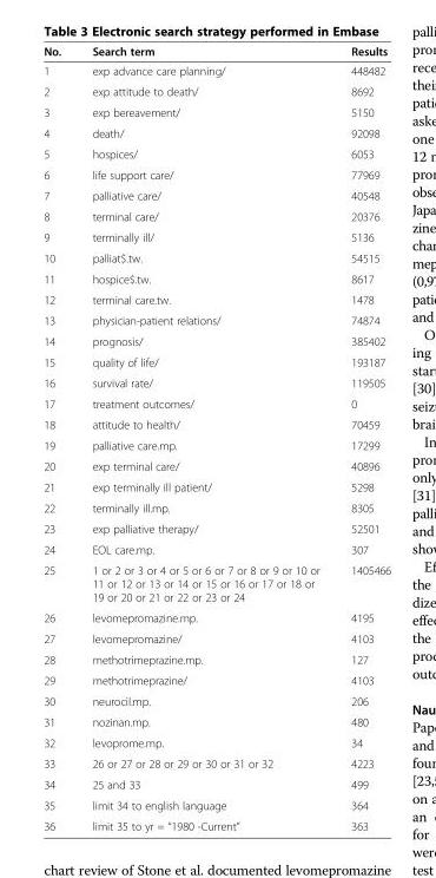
<table><thead><tr><td>No.</td><td>Search term</td><td>Results</td></tr></thead><tbody><tr><td>1</td><td>exp advance care planning/</td><td>448482</td></tr><tr><td>2</td><td>exp attitude to death/</td><td>8692</td></tr><tr><td>3</td><td>exp bereavement/</td><td>5150</td></tr><tr><td>4</td><td>death/</td><td>92098</td></tr><tr><td>5</td><td>hospices/</td><td>6053</td></tr><tr><td>6</td><td>life support care/</td><td>77969</td></tr><tr><td>7</td><td>palliative care/</td><td>40548</td></tr><tr><td>8</td><td>terminal care/</td><td>20376</td></tr><tr><td>9</td><td>terminally ill/</td><td>5136</td></tr><tr><td>10</td><td>palliat$.tw.</td><td>54515</td></tr><tr><td>11</td><td>hospice$.tw.</td><td>8617</td></tr><tr><td>12</td><td>terminal care.tw.</td><td>1478</td></tr><tr><td>13</td><td>physician-patient relations/</td><td>74874</td></tr><tr><td>14</td><td>prognosis/</td><td>385402</td></tr><tr><td>15</td><td>quality of life/</td><td>193187</td></tr><tr><td>16</td><td>survival rate/</td><td>119505</td></tr><tr><td>17</td><td>treatment outcomes/</td><td>0</td></tr><tr><td>18</td><td>attitude to health/</td><td>70459</td></tr><tr><td>19</td><td>palliative care.mp.</td><td>17299</td></tr><tr><td>20</td><td>exp terminal care/</td><td>40896</td></tr><tr><td>21</td><td>exp terminally ill patient/</td><td>5298</td></tr><tr><td>22</td><td>terminally ill.mp.</td><td>8305</td></tr><tr><td>23</td><td>exp palliative therapy/</td><td>52501</td></tr><tr><td>24</td><td>EOL care.mp.</td><td>307</td></tr><tr><td>25</td><td>1 or 2 or 3 or 4 or 5 or 6 or 7 or 8 or 9 or 10 or 11 or 12 or 13 or 14 or 15 or 16 or 17 or 18 or 19 or 20 or 21 or 22 or 23 or 24</td><td>1405466</td></tr><tr><td>26</td><td>levomepromazine.mp.</td><td>4195</td></tr><tr><td>27</td><td>levomepromazine/</td><td>4103</td></tr><tr><td>28</td><td>methotrimeprazine.mp.</td><td>127</td></tr><tr><td>29</td><td>methotrimeprazine/</td><td>4103</td></tr><tr><td>30</td><td>neurocil.mp.</td><td>206</td></tr><tr><td>31</td><td>nozinan.mp.</td><td>480</td></tr><tr><td>32</td><td>levoprome.mp.</td><td>34</td></tr><tr><td>33</td><td>26 or 27 or 28 or 29 or 30 or 31 or 32</td><td>4223</td></tr><tr><td>34</td><td>25 and 33</td><td>499</td></tr><tr><td>35</td><td>limit 34 to english language</td><td>364</td></tr><tr><td>36</td><td>limit 35 to yr = “1980 -Current”</td><td>363</td></tr></tbody></table>